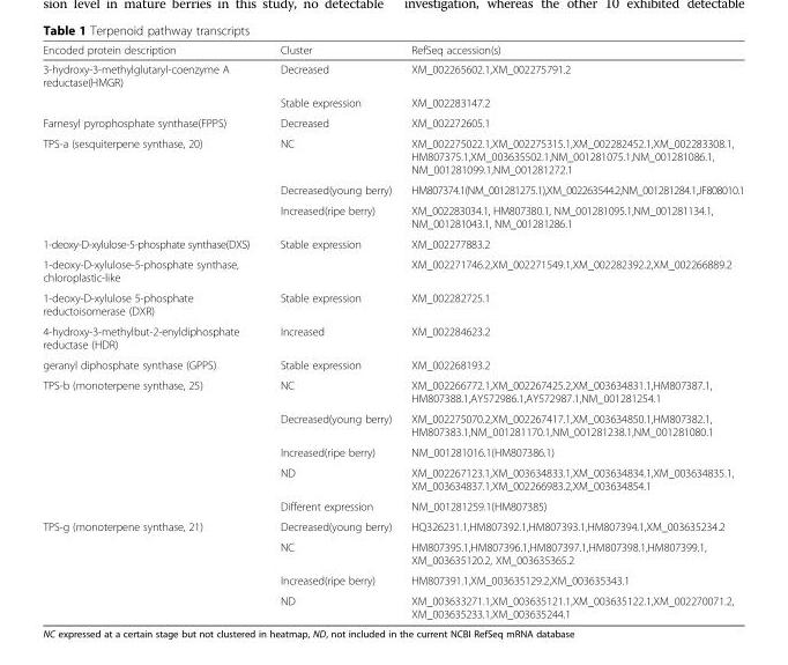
<table><thead><tr><td>Encoded protein description</td><td>Cluster</td><td>RefSeq accession(s)</td></tr></thead><tbody><tr><td rowspan="2">3-hydroxy-3-methylglutaryl-coenzyme A reductase(HMGR)</td><td>Decreased</td><td>XM_002265602.1,XM_002275791.2</td></tr><tr><td>Stable expression</td><td>XM_002283147.2</td></tr><tr><td>Farnesyl pyrophosphate synthase(FPPS)</td><td>Decreased</td><td>XM_002272605.1</td></tr><tr><td rowspan="3">TPS-a (sesquiterpene synthase, 20)</td><td>NC</td><td>XM_002275022.1,XM_002275315.1,XM_002282452.1,XM_002283308.1, HM807375.1,XM_003635502.1,NM_001281075.1,NM_001281086.1, NM_001281099.1,NM_001281272.1</td></tr><tr><td>Decreased(young berry)</td><td>HM807374.1(NM_001281275.1),XM_002263544.2,NM_001281284.1,JF808010.1</td></tr><tr><td>Increased(ripe berry)</td><td>XM_002283034.1, HM807380.1, NM_001281095.1,NM_001281134.1, NM_001281043.1, NM_001281286.1</td></tr><tr><td>1-deoxy-D-xylulose-5-phosphate synthase(DXS)</td><td>Stable expression</td><td>XM_002277883.2</td></tr><tr><td>1-deoxy-D-xylulose-5-phosphate synthase, chloroplastic-like</td><td></td><td>XM_002271746.2,XM_002271549.1,XM_002282392.2,XM_002266889.2</td></tr><tr><td>1-deoxy-D-xylulose 5-phosphate reductoisomerase (DXR)</td><td>Stable expression</td><td>XM_002282725.1</td></tr><tr><td>4-hydroxy-3-methylbut-2-enyldiphosphate reductase (HDR)</td><td>Increased</td><td>XM_002284623.2</td></tr><tr><td>geranyl diphosphate synthase (GPPS)</td><td>Stable expression</td><td>XM_002268193.2</td></tr><tr><td rowspan="5">TPS-b (monoterpene synthase, 25)</td><td>NC</td><td>XM_002266772.1,XM_002267425.2,XM_003634831.1,HM807387.1, HM807388.1,AY572986.1,AY572987.1,NM_001281254.1</td></tr><tr><td>Decreased(young berry)</td><td>XM_002275070.2,XM_002267417.1,XM_003634850.1,HM807382.1, HM807383.1,NM_001281170.1,NM_001281238.1,NM_001281080.1</td></tr><tr><td>Increased(ripe berry)</td><td>NM_001281016.1(HM807386.1)</td></tr><tr><td>ND</td><td>XM_002267123.1,XM_003634833.1,XM_003634834.1,XM_003634835.1, XM_003634837.1,XM_002266983.2,XM_003634854.1</td></tr><tr><td>Different expression</td><td>NM_001281259.1(HM807385)</td></tr><tr><td rowspan="4">TPS-g (monoterpene synthase, 21)</td><td>Decreased(young berry)</td><td>HQ326231.1,HM807392.1,HM807393.1,HM807394.1,XM_003635234.2</td></tr><tr><td>NC</td><td>HM807395.1,HM807396.1,HM807397.1,HM807398.1,HM807399.1, XM_003635120.2, XM_003635365.2</td></tr><tr><td>Increased(ripe berry)</td><td>HM807391.1,XM_003635129.2,XM_003635343.1</td></tr><tr><td>ND</td><td>XM_003633271.1,XM_003635121.1,XM_003635122.1,XM_002270071.2, XM_003635233.1,XM_003635244.1</td></tr></tbody></table>